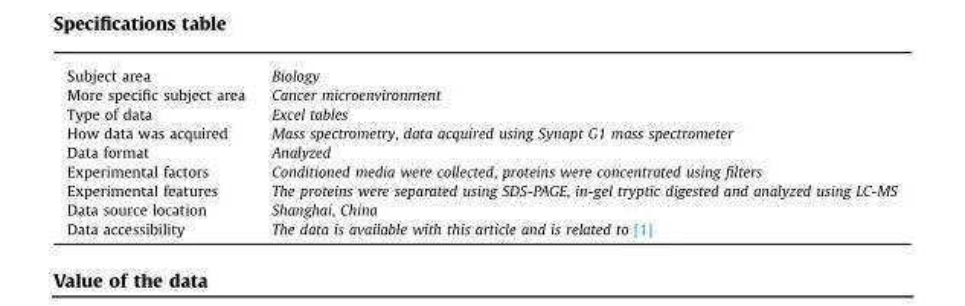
<table><tbody><tr><td>Subject area</td><td>Biology</td></tr><tr><td>More specific subject area</td><td>Cancer microenvironment</td></tr><tr><td>Type of data</td><td>Excel tables</td></tr><tr><td>How data was acquired</td><td>Mass spectrometry, data acquired using Synapt G1 mass spectrometer</td></tr><tr><td>Data format</td><td>Analyzed</td></tr><tr><td>Experimental factors</td><td>Conditioned media were collected, proteins were concentrated using filters</td></tr><tr><td>Experimental features</td><td>The proteins were separated using SDS-PAGE, in-gel tryptic digested and analyzed using LC-MS</td></tr><tr><td>Data source location</td><td>Shanghai, China</td></tr><tr><td>Data accessibility</td><td>The data is available with this article and is related to [1]</td></tr></tbody></table>